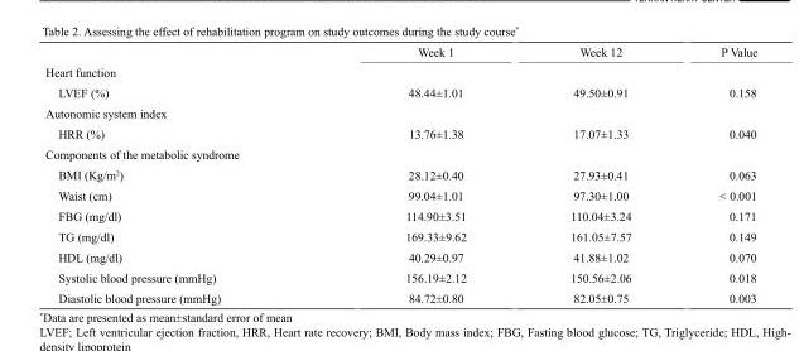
<table><thead><tr><td></td><td>Week 1</td><td>Week 12</td><td>P Value</td></tr></thead><tbody><tr><td colspan="4">Heart function</td></tr><tr><td>LVEF (%)</td><td>48.44±1.01</td><td>49.50±0.91</td><td>0.158</td></tr><tr><td colspan="4">Autonomic system index</td></tr><tr><td>HRR (%)</td><td>13.76±1.38</td><td>17.07±1.33</td><td>0.040</td></tr><tr><td colspan="4">Components of the metabolic syndrome</td></tr><tr><td>BMI (Kg/m<sup>2</sup>)</td><td>28.12±0.40</td><td>27.93±0.41</td><td>0.063</td></tr><tr><td>Waist (cm)</td><td>99.04±1.01</td><td>97.30±1.00</td><td>&lt; 0.001</td></tr><tr><td>FBG (mg/dl)</td><td>114.90±3.51</td><td>110.04±3.24</td><td>0.171</td></tr><tr><td>TG (mg/dl)</td><td>169.33±9.62</td><td>161.05±7.57</td><td>0.149</td></tr><tr><td>HDL (mg/dl)</td><td>40.29±0.97</td><td>41.88±1.02</td><td>0.070</td></tr><tr><td>Systolic blood pressure (mmHg)</td><td>156.19±2.12</td><td>150.56±2.06</td><td>0.018</td></tr><tr><td>Diastolic blood pressure (mmHg)</td><td>84.72±0.80</td><td>82.05±0.75</td><td>0.003</td></tr></tbody></table>